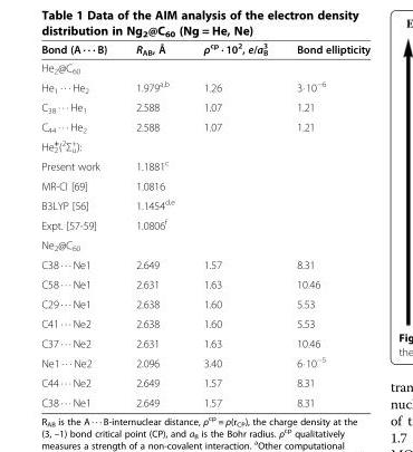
<table><thead><tr><td>Bond (A · · · B)</td><td>R<sub>AB</sub>, Å</td><td>ρ<sup>cp</sup> · 10<sup>2</sup>, e/a<sub>B</sub> <sup>3</sup></td><td>Bond ellipticity</td></tr></thead><tbody><tr><td colspan="4">He<sub>2</sub>@C<sub>60</sub></td></tr><tr><td>He<sub>1</sub> · · · He<sub>2</sub></td><td>1.979<sup>a,b</sup></td><td>1.26</td><td>3⋅10<sup>−6</sup></td></tr><tr><td>C<sub>38</sub> · · · He<sub>1</sub></td><td>2.588</td><td>1.07</td><td>1.21</td></tr><tr><td>C<sub>44</sub> · · · He<sub>2</sub></td><td>2.588</td><td>1.07</td><td>1.21</td></tr><tr><td colspan="4">He<sub>2</sub> <sup>+</sup>(<sup>2</sup>Σ<sub>u</sub> <sup>+</sup>):</td></tr><tr><td>Present work</td><td>1.1881<sup>c</sup></td><td></td><td></td></tr><tr><td>MR-CI [69]</td><td>1.0816</td><td></td><td></td></tr><tr><td>B3LYP [56]</td><td>1.1454<sup>d,e</sup></td><td></td><td></td></tr><tr><td>Expt. [57-59]</td><td>1.0806<sup>f</sup></td><td></td><td></td></tr><tr><td colspan="4">Ne<sub>2</sub>@C<sub>60</sub></td></tr><tr><td>C38 · · · Ne1</td><td>2.649</td><td>1.57</td><td>8.31</td></tr><tr><td>C58 · · · Ne1</td><td>2.631</td><td>1.63</td><td>10.46</td></tr><tr><td>C29 · · · Ne1</td><td>2.638</td><td>1.60</td><td>5.53</td></tr><tr><td>C41 · · · Ne2</td><td>2.638</td><td>1.60</td><td>5.53</td></tr><tr><td>C37 · · · Ne2</td><td>2.631</td><td>1.63</td><td>10.46</td></tr><tr><td>Ne1 · · · Ne2</td><td>2.096</td><td>3.40</td><td>6⋅10<sup>−5</sup></td></tr><tr><td>C44 · · · Ne2</td><td>2.649</td><td>1.57</td><td>8.31</td></tr><tr><td>C38 · · · Ne1</td><td>2.649</td><td>1.57</td><td>8.31</td></tr></tbody></table>